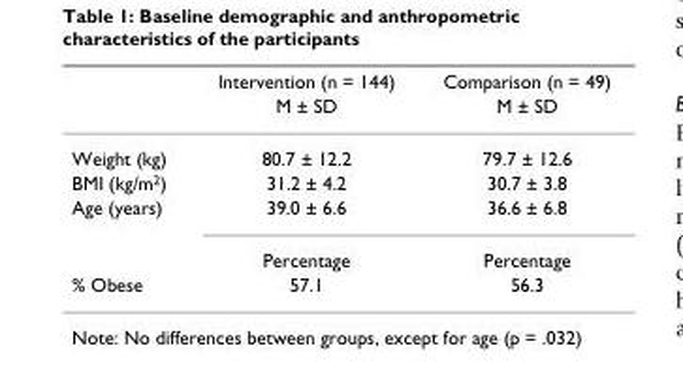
<table><thead><tr><td rowspan="2"></td><td rowspan="2">Intervention (n = 144) M ± SD</td><td rowspan="2">Comparison (n = 49) M ± SD</td></tr><tr></tr></thead><tbody><tr><td>Weight (kg)</td><td>80.7 ± 12.2</td><td>79.7 ± 12.6</td></tr><tr><td>BMI (kg/m<sup>2</sup>)</td><td>31.2 ± 4.2</td><td>30.7 ± 3.8</td></tr><tr><td rowspan="2">Age (years)</td><td>39.0 ± 6.6</td><td>36.6 ± 6.8</td></tr><tr><td>Percentage</td><td>Percentage</td></tr><tr><td>% Obese</td><td>57.1</td><td>56.3</td></tr></tbody></table>